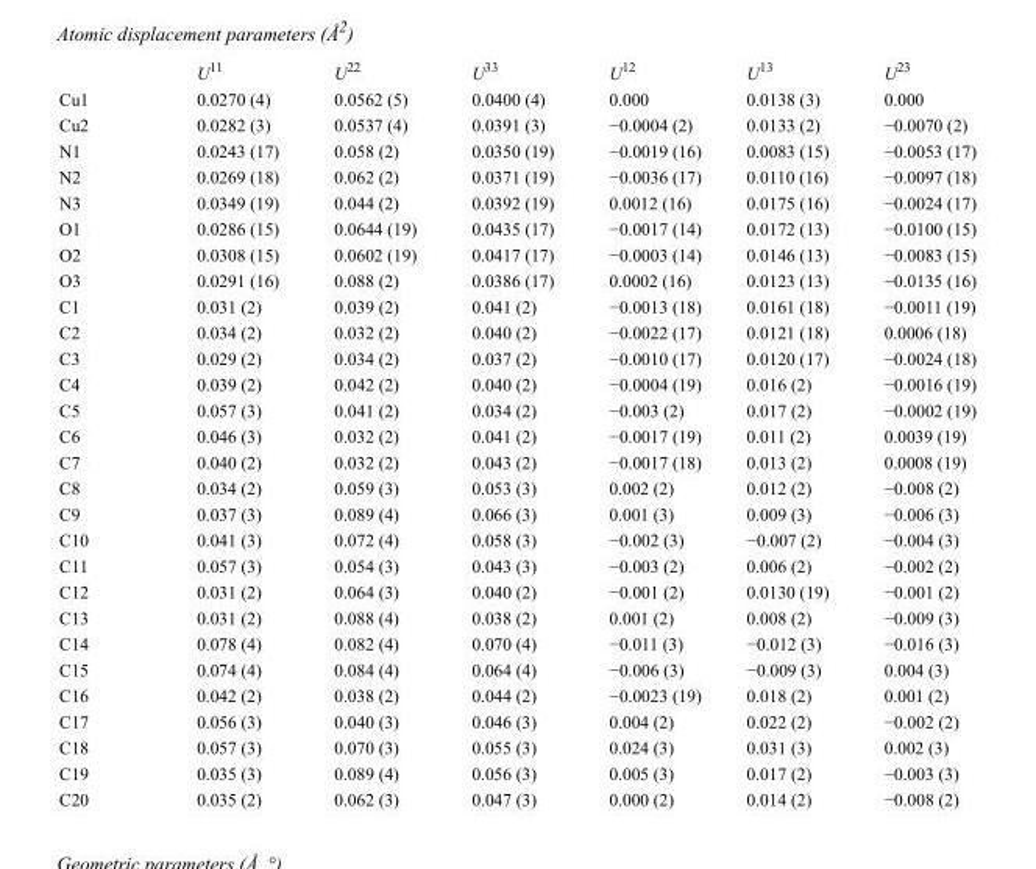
<table><thead><tr><td></td><td>U<sup>11</sup></td><td>U<sup>22</sup></td><td>U<sup>33</sup></td><td>U<sup>12</sup></td><td>U<sup>13</sup></td><td>U<sup>23</sup></td></tr></thead><tbody><tr><td>Cu1</td><td>0.0270 (4)</td><td>0.0562 (5)</td><td>0.0400 (4)</td><td>0.000</td><td>0.0138 (3)</td><td>0.000</td></tr><tr><td>Cu2</td><td>0.0282 (3)</td><td>0.0537 (4)</td><td>0.0391 (3)</td><td>−0.0004 (2)</td><td>0.0133 (2)</td><td>−0.0070 (2)</td></tr><tr><td>N1</td><td>0.0243 (17)</td><td>0.058 (2)</td><td>0.0350 (19)</td><td>−0.0019 (16)</td><td>0.0083 (15)</td><td>−0.0053 (17)</td></tr><tr><td>N2</td><td>0.0269 (18)</td><td>0.062 (2)</td><td>0.0371 (19)</td><td>−0.0036 (17)</td><td>0.0110 (16)</td><td>−0.0097 (18)</td></tr><tr><td>N3</td><td>0.0349 (19)</td><td>0.044 (2)</td><td>0.0392 (19)</td><td>0.0012 (16)</td><td>0.0175 (16)</td><td>−0.0024 (17)</td></tr><tr><td>O1</td><td>0.0286 (15)</td><td>0.0644 (19)</td><td>0.0435 (17)</td><td>−0.0017 (14)</td><td>0.0172 (13)</td><td>−0.0100 (15)</td></tr><tr><td>O2</td><td>0.0308 (15)</td><td>0.0602 (19)</td><td>0.0417 (17)</td><td>−0.0003 (14)</td><td>0.0146 (13)</td><td>−0.0083 (15)</td></tr><tr><td>O3</td><td>0.0291 (16)</td><td>0.088 (2)</td><td>0.0386 (17)</td><td>0.0002 (16)</td><td>0.0123 (13)</td><td>−0.0135 (16)</td></tr><tr><td>C1</td><td>0.031 (2)</td><td>0.039 (2)</td><td>0.041 (2)</td><td>−0.0013 (18)</td><td>0.0161 (18)</td><td>−0.0011 (19)</td></tr><tr><td>C2</td><td>0.034 (2)</td><td>0.032 (2)</td><td>0.040 (2)</td><td>−0.0022 (17)</td><td>0.0121 (18)</td><td>0.0006 (18)</td></tr><tr><td>C3</td><td>0.029 (2)</td><td>0.034 (2)</td><td>0.037 (2)</td><td>−0.0010 (17)</td><td>0.0120 (17)</td><td>−0.0024 (18)</td></tr><tr><td>C4</td><td>0.039 (2)</td><td>0.042 (2)</td><td>0.040 (2)</td><td>−0.0004 (19)</td><td>0.016 (2)</td><td>−0.0016 (19)</td></tr><tr><td>C5</td><td>0.057 (3)</td><td>0.041 (2)</td><td>0.034 (2)</td><td>−0.003 (2)</td><td>0.017 (2)</td><td>−0.0002 (19)</td></tr><tr><td>C6</td><td>0.046 (3)</td><td>0.032 (2)</td><td>0.041 (2)</td><td>−0.0017 (19)</td><td>0.011 (2)</td><td>0.0039 (19)</td></tr><tr><td>C7</td><td>0.040 (2)</td><td>0.032 (2)</td><td>0.043 (2)</td><td>−0.0017 (18)</td><td>0.013 (2)</td><td>0.0008 (19)</td></tr><tr><td>C8</td><td>0.034 (2)</td><td>0.059 (3)</td><td>0.053 (3)</td><td>0.002 (2)</td><td>0.012 (2)</td><td>−0.008 (2)</td></tr><tr><td>C9</td><td>0.037 (3)</td><td>0.089 (4)</td><td>0.066 (3)</td><td>0.001 (3)</td><td>0.009 (3)</td><td>−0.006 (3)</td></tr><tr><td>C10</td><td>0.041 (3)</td><td>0.072 (4)</td><td>0.058 (3)</td><td>−0.002 (3)</td><td>−0.007 (2)</td><td>−0.004 (3)</td></tr><tr><td>C11</td><td>0.057 (3)</td><td>0.054 (3)</td><td>0.043 (3)</td><td>−0.003 (2)</td><td>0.006 (2)</td><td>−0.002 (2)</td></tr><tr><td>C12</td><td>0.031 (2)</td><td>0.064 (3)</td><td>0.040 (2)</td><td>−0.001 (2)</td><td>0.0130 (19)</td><td>−0.001 (2)</td></tr><tr><td>C13</td><td>0.031 (2)</td><td>0.088 (4)</td><td>0.038 (2)</td><td>0.001 (2)</td><td>0.008 (2)</td><td>−0.009 (3)</td></tr><tr><td>C14</td><td>0.078 (4)</td><td>0.082 (4)</td><td>0.070 (4)</td><td>−0.011 (3)</td><td>−0.012 (3)</td><td>−0.016 (3)</td></tr><tr><td>C15</td><td>0.074 (4)</td><td>0.084 (4)</td><td>0.064 (4)</td><td>−0.006 (3)</td><td>−0.009 (3)</td><td>0.004 (3)</td></tr><tr><td>C16</td><td>0.042 (2)</td><td>0.038 (2)</td><td>0.044 (2)</td><td>−0.0023 (19)</td><td>0.018 (2)</td><td>0.001 (2)</td></tr><tr><td>C17</td><td>0.056 (3)</td><td>0.040 (3)</td><td>0.046 (3)</td><td>0.004 (2)</td><td>0.022 (2)</td><td>−0.002 (2)</td></tr><tr><td>C18</td><td>0.057 (3)</td><td>0.070 (3)</td><td>0.055 (3)</td><td>0.024 (3)</td><td>0.031 (3)</td><td>0.002 (3)</td></tr><tr><td>C19</td><td>0.035 (3)</td><td>0.089 (4)</td><td>0.056 (3)</td><td>0.005 (3)</td><td>0.017 (2)</td><td>−0.003 (3)</td></tr><tr><td>C20</td><td>0.035 (2)</td><td>0.062 (3)</td><td>0.047 (3)</td><td>0.000 (2)</td><td>0.014 (2)</td><td>−0.008 (2)</td></tr></tbody></table>